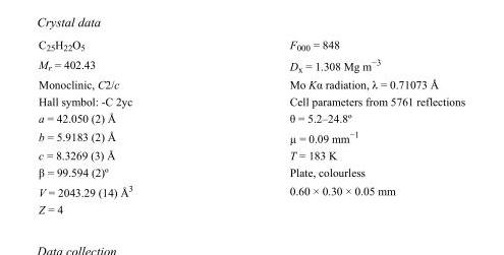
<table><tbody><tr><td>C<sub>25</sub>H<sub>22</sub>O<sub>5</sub></td><td>F000 = 848</td></tr><tr><td>M<sub>r</sub> = 402.43</td><td>D<sub>x</sub> = 1.308 Mg m<sup>−3</sup></td></tr><tr><td>Monoclinic, C2/c</td><td>Mo Kα radiation, λ = 0.71073 Å</td></tr><tr><td>Hall symbol: -C 2yc</td><td>Cell parameters from 5761 reflections</td></tr><tr><td>a = 42.050 (2) Å</td><td>θ = 5.2–24.8º</td></tr><tr><td>b = 5.9183 (2) Å</td><td>µ = 0.09 mm<sup>−1</sup></td></tr><tr><td>c = 8.3269 (3) Å</td><td>T = 183 K</td></tr><tr><td>β = 99.594 (2)º</td><td>Plate, colourless</td></tr><tr><td>V = 2043.29 (14) Å<sup>3</sup></td><td>0.60 × 0.30 × 0.05 mm</td></tr><tr><td>Z = 4</td><td></td></tr></tbody></table>